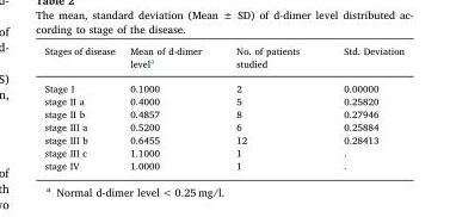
<table><thead><tr><td>Stages of disease</td><td>Mean of d-dimer level<sup>a</sup></td><td>No. of patients studied</td><td>Std. Deviation</td></tr></thead><tbody><tr><td>Stage I</td><td>0.1000</td><td>2</td><td>0.00000</td></tr><tr><td>stage II a</td><td>0.4000</td><td>5</td><td>0.25820</td></tr><tr><td>stage II b</td><td>0.4857</td><td>8</td><td>0.27946</td></tr><tr><td>stage III a</td><td>0.5200</td><td>6</td><td>0.25884</td></tr><tr><td>stage III b</td><td>0.6455</td><td>12</td><td>0.28413</td></tr><tr><td>stage III c</td><td>1.1000</td><td>1</td><td>.</td></tr><tr><td>stage IV</td><td>1.0000</td><td>1</td><td>.</td></tr></tbody></table>